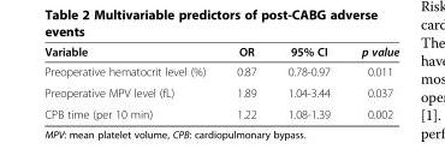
<table><thead><tr><td>Variable</td><td>OR</td><td>95% CI</td><td>p value</td></tr></thead><tbody><tr><td>Preoperative hematocrit level (%)</td><td>0.87</td><td>0.78-0.97</td><td>0.011</td></tr><tr><td>Preoperative MPV level (fL)</td><td>1.89</td><td>1.04-3.44</td><td>0.037</td></tr><tr><td>CPB time (per 10 min)</td><td>1.22</td><td>1.08-1.39</td><td>0.002</td></tr></tbody></table>